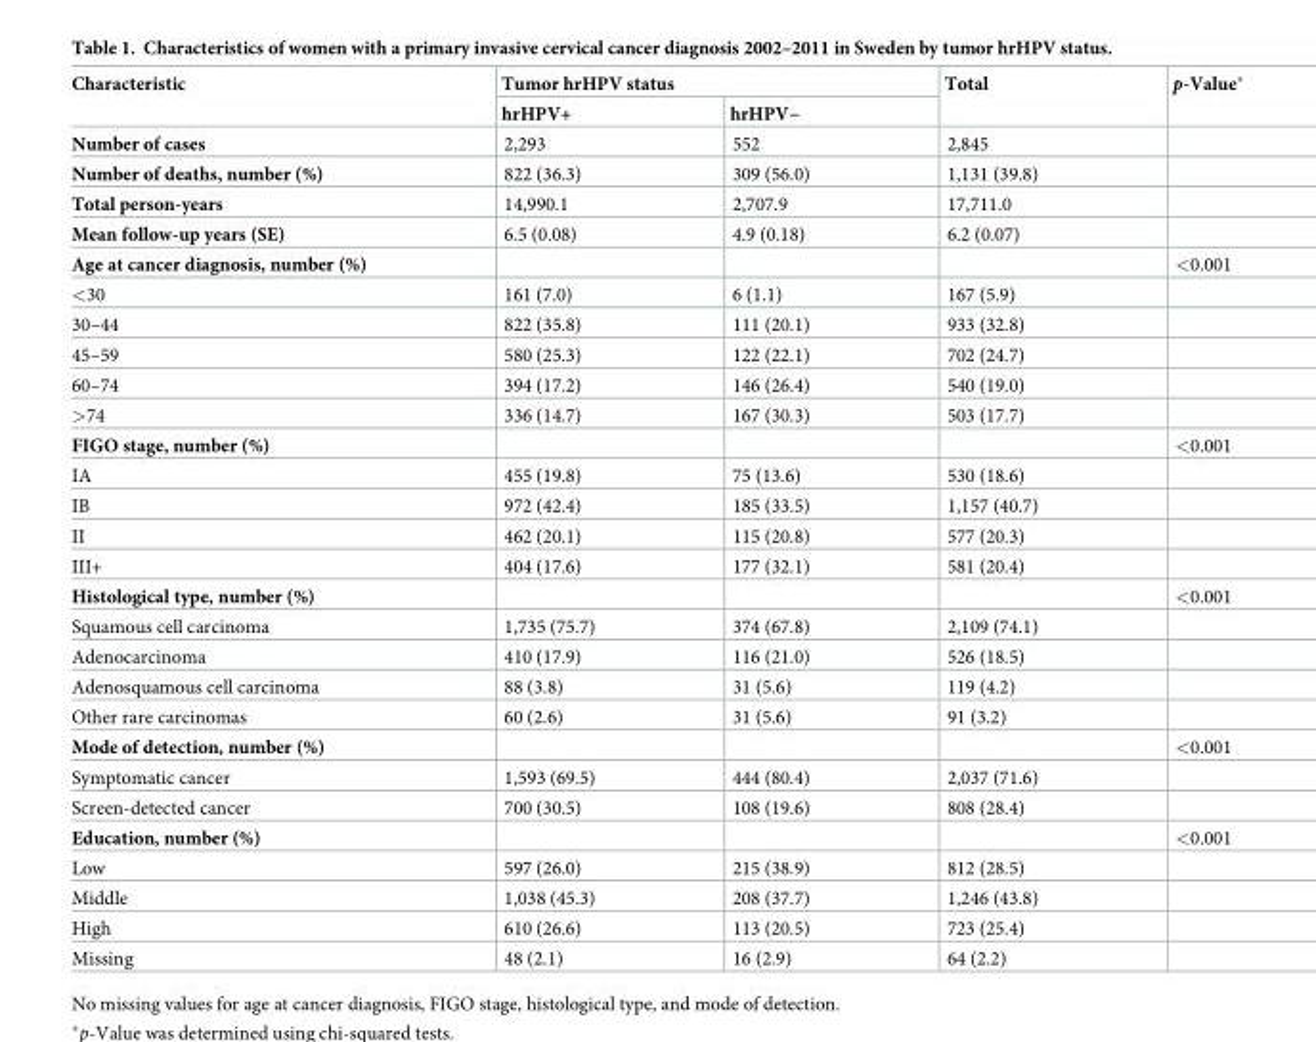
<table><thead><tr><td rowspan="2">Characteristic</td><td colspan="2">Tumor hrHPV status</td><td rowspan="2">Total</td><td rowspan="2">p-Value*</td></tr><tr><td>hrHPV+</td><td>hrHPV−</td></tr></thead><tbody><tr><td>Number of cases</td><td>2,293</td><td>552</td><td>2,845</td><td></td></tr><tr><td>Number of deaths, number (%)</td><td>822 (36.3)</td><td>309 (56.0)</td><td>1,131 (39.8)</td><td></td></tr><tr><td>Total person-years</td><td>14,990.1</td><td>2,707.9</td><td>17,711.0</td><td></td></tr><tr><td>Mean follow-up years (SE)</td><td>6.5 (0.08)</td><td>4.9 (0.18)</td><td>6.2 (0.07)</td><td></td></tr><tr><td>Age at cancer diagnosis, number (%)</td><td></td><td></td><td></td><td>&lt;0.001</td></tr><tr><td>&lt;30</td><td>161 (7.0)</td><td>6 (1.1)</td><td>167 (5.9)</td><td></td></tr><tr><td>30–44</td><td>822 (35.8)</td><td>111 (20.1)</td><td>933 (32.8)</td><td></td></tr><tr><td>45–59</td><td>580 (25.3)</td><td>122 (22.1)</td><td>702 (24.7)</td><td></td></tr><tr><td>60–74</td><td>394 (17.2)</td><td>146 (26.4)</td><td>540 (19.0)</td><td></td></tr><tr><td>&gt;74</td><td>336 (14.7)</td><td>167 (30.3)</td><td>503 (17.7)</td><td></td></tr><tr><td>FIGO stage, number (%)</td><td></td><td></td><td></td><td>&lt;0.001</td></tr><tr><td>IA</td><td>455 (19.8)</td><td>75 (13.6)</td><td>530 (18.6)</td><td></td></tr><tr><td>IB</td><td>972 (42.4)</td><td>185 (33.5)</td><td>1,157 (40.7)</td><td></td></tr><tr><td>II</td><td>462 (20.1)</td><td>115 (20.8)</td><td>577 (20.3)</td><td></td></tr><tr><td>III+</td><td>404 (17.6)</td><td>177 (32.1)</td><td>581 (20.4)</td><td></td></tr><tr><td>Histological type, number (%)</td><td></td><td></td><td></td><td>&lt;0.001</td></tr><tr><td>Squamous cell carcinoma</td><td>1,735 (75.7)</td><td>374 (67.8)</td><td>2,109 (74.1)</td><td></td></tr><tr><td>Adenocarcinoma</td><td>410 (17.9)</td><td>116 (21.0)</td><td>526 (18.5)</td><td></td></tr><tr><td>Adenosquamous cell carcinoma</td><td>88 (3.8)</td><td>31 (5.6)</td><td>119 (4.2)</td><td></td></tr><tr><td>Other rare carcinomas</td><td>60 (2.6)</td><td>31 (5.6)</td><td>91 (3.2)</td><td></td></tr><tr><td>Mode of detection, number (%)</td><td></td><td></td><td></td><td>&lt;0.001</td></tr><tr><td>Symptomatic cancer</td><td>1,593 (69.5)</td><td>444 (80.4)</td><td>2,037 (71.6)</td><td></td></tr><tr><td>Screen-detected cancer</td><td>700 (30.5)</td><td>108 (19.6)</td><td>808 (28.4)</td><td></td></tr><tr><td>Education, number (%)</td><td></td><td></td><td></td><td>&lt;0.001</td></tr><tr><td>Low</td><td>597 (26.0)</td><td>215 (38.9)</td><td>812 (28.5)</td><td></td></tr><tr><td>Middle</td><td>1,038 (45.3)</td><td>208 (37.7)</td><td>1,246 (43.8)</td><td></td></tr><tr><td>High</td><td>610 (26.6)</td><td>113 (20.5)</td><td>723 (25.4)</td><td></td></tr><tr><td>Missing</td><td>48 (2.1)</td><td>16 (2.9)</td><td>64 (2.2)</td><td></td></tr></tbody></table>